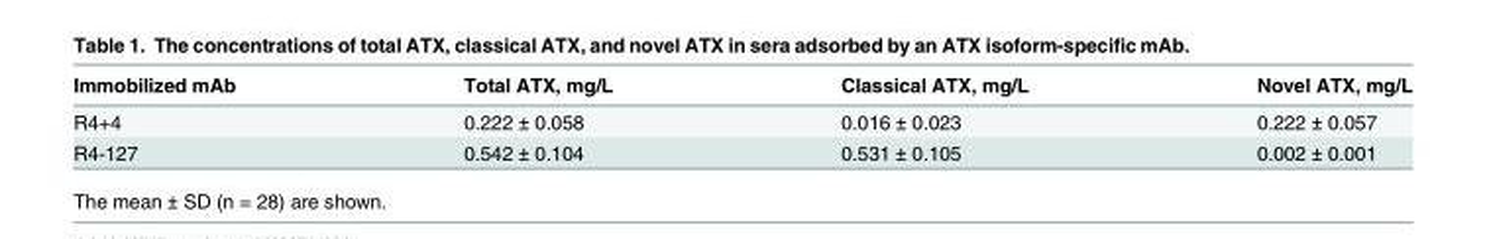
<table><thead><tr><td>Immobilized mAb</td><td>Total ATX, mg/L</td><td>Classical ATX, mg/L</td><td>Novel ATX, mg/L</td></tr></thead><tbody><tr><td>R4+4</td><td>0.222 ± 0.058</td><td>0.016 ± 0.023</td><td>0.222 ± 0.057</td></tr><tr><td>R4-127</td><td>0.542 ± 0.104</td><td>0.531 ± 0.105</td><td>0.002 ± 0.001</td></tr></tbody></table>